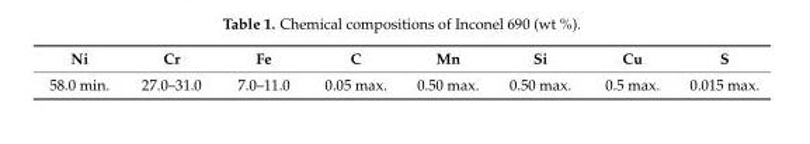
<table><thead><tr><td>Ni</td><td>Cr</td><td>Fe</td><td>C</td><td>Mn</td><td>Si</td><td>Cu</td><td>S</td></tr></thead><tbody><tr><td>58.0 min.</td><td>27.0–31.0</td><td>7.0–11.0</td><td>0.05 max.</td><td>0.50 max.</td><td>0.50 max.</td><td>0.5 max.</td><td>0.015 max.</td></tr></tbody></table>